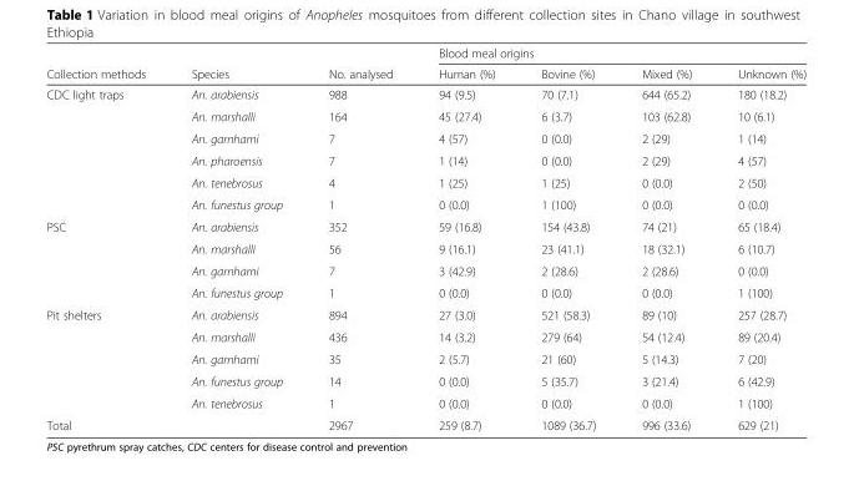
<table><thead><tr><td rowspan="2">Collection methods</td><td rowspan="2">Species</td><td rowspan="2">No. analysed</td><td colspan="4">Blood meal origins</td></tr><tr><td>Human (%)</td><td>Bovine (%)</td><td>Mixed (%)</td><td>Unknown (%)</td></tr></thead><tbody><tr><td rowspan="6">CDC light traps</td><td>An. arabiensis</td><td>988</td><td>94 (9.5)</td><td>70 (7.1)</td><td>644 (65.2)</td><td>180 (18.2)</td></tr><tr><td>An. marshalli</td><td>164</td><td>45 (27.4)</td><td>6 (3.7)</td><td>103 (62.8)</td><td>10 (6.1)</td></tr><tr><td>An. garnhami</td><td>7</td><td>4 (57)</td><td>0 (0.0)</td><td>2 (29)</td><td>1 (14)</td></tr><tr><td>An. pharoensis</td><td>7</td><td>1 (14)</td><td>0 (0.0)</td><td>2 (29)</td><td>4 (57)</td></tr><tr><td>An. tenebrosus</td><td>4</td><td>1 (25)</td><td>1 (25)</td><td>0 (0.0)</td><td>2 (50)</td></tr><tr><td>An. funestus group</td><td>1</td><td>0 (0.0)</td><td>1 (100)</td><td>0 (0.0)</td><td>0 (0.0)</td></tr><tr><td rowspan="4">PSC</td><td>An. arabiensis</td><td>352</td><td>59 (16.8)</td><td>154 (43.8)</td><td>74 (21)</td><td>65 (18.4)</td></tr><tr><td>An. marshalli</td><td>56</td><td>9 (16.1)</td><td>23 (41.1)</td><td>18 (32.1)</td><td>6 (10.7)</td></tr><tr><td>An. garnhami</td><td>7</td><td>3 (42.9)</td><td>2 (28.6)</td><td>2 (28.6)</td><td>0 (0.0)</td></tr><tr><td>An. funestus group</td><td>1</td><td>0 (0.0)</td><td>0 (0.0)</td><td>0 (0.0)</td><td>1 (100)</td></tr><tr><td rowspan="5">Pit shelters</td><td>An. arabiensis</td><td>894</td><td>27 (3.0)</td><td>521 (58.3)</td><td>89 (10)</td><td>257 (28.7)</td></tr><tr><td>An. marshalli</td><td>436</td><td>14 (3.2)</td><td>279 (64)</td><td>54 (12.4)</td><td>89 (20.4)</td></tr><tr><td>An. garnhami</td><td>35</td><td>2 (5.7)</td><td>21 (60)</td><td>5 (14.3)</td><td>7 (20)</td></tr><tr><td>An. funestus group</td><td>14</td><td>0 (0.0)</td><td>5 (35.7)</td><td>3 (21.4)</td><td>6 (42.9)</td></tr><tr><td>An. tenebrosus</td><td>1</td><td>0 (0.0)</td><td>0 (0.0)</td><td>0 (0.0)</td><td>1 (100)</td></tr><tr><td>Total</td><td></td><td>2967</td><td>259 (8.7)</td><td>1089 (36.7)</td><td>996 (33.6)</td><td>629 (21)</td></tr></tbody></table>